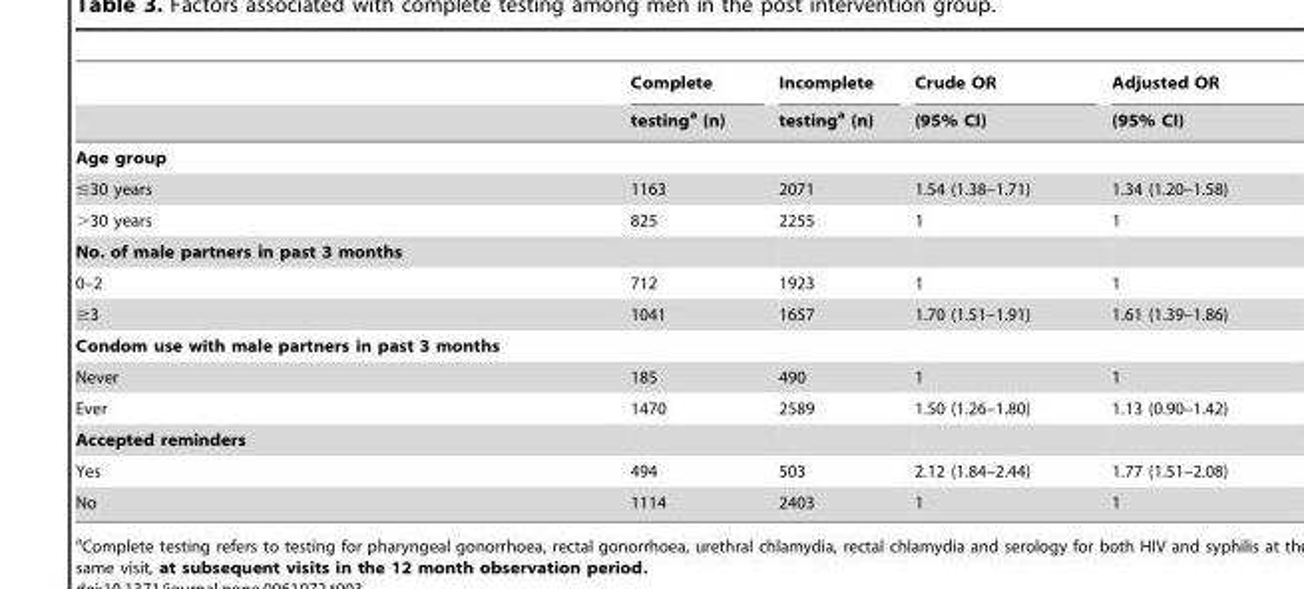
<table><thead><tr><td rowspan="2"></td><td rowspan="2">Complete testing<sup>a</sup> (n)</td><td rowspan="2">Incomplete testing<sup>a</sup> (n)</td><td rowspan="2">Crude OR (95% CI)</td><td rowspan="2">Adjusted OR (95% CI)</td></tr><tr></tr></thead><tbody><tr><td colspan="5">Age group</td></tr><tr><td>≤30 years</td><td>1163</td><td>2071</td><td>1.54 (1.38–1.71)</td><td>1.34 (1.20–1.58)</td></tr><tr><td>&gt;30 years</td><td>825</td><td>2255</td><td>1</td><td>1</td></tr><tr><td colspan="5">No. of male partners in past 3 months</td></tr><tr><td>0–2</td><td>712</td><td>1923</td><td>1</td><td>1</td></tr><tr><td>≥3</td><td>1041</td><td>1657</td><td>1.70 (1.51–1.91)</td><td>1.61 (1.39–1.86)</td></tr><tr><td colspan="5">Condom use with male partners in past 3 months</td></tr><tr><td>Never</td><td>185</td><td>490</td><td>1</td><td>1</td></tr><tr><td>Ever</td><td>1470</td><td>2589</td><td>1.50 (1.26–1.80)</td><td>1.13 (0.90–1.42)</td></tr><tr><td colspan="5">Accepted reminders</td></tr><tr><td>Yes</td><td>494</td><td>503</td><td>2.12 (1.84–2.44)</td><td>1.77 (1.51–2.08)</td></tr><tr><td>No</td><td>1114</td><td>2403</td><td>1</td><td>1</td></tr></tbody></table>